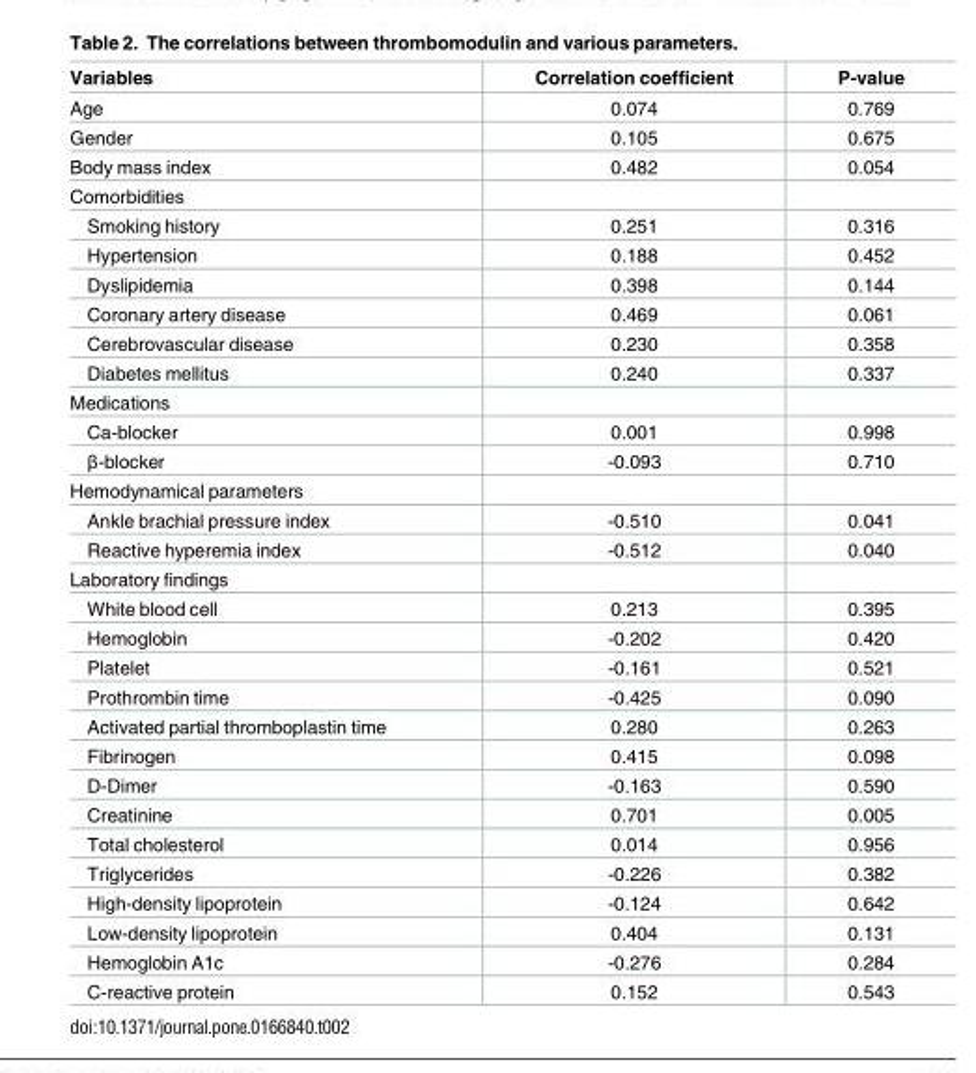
<table><thead><tr><td>Variables</td><td>Correlation coefficient</td><td>P-value</td></tr></thead><tbody><tr><td>Age</td><td>0.074</td><td>0.769</td></tr><tr><td>Gender</td><td>0.105</td><td>0.675</td></tr><tr><td>Body mass index</td><td>0.482</td><td>0.054</td></tr><tr><td colspan="3">Comorbidities</td></tr><tr><td>Smoking history</td><td>0.251</td><td>0.316</td></tr><tr><td>Hypertension</td><td>0.188</td><td>0.452</td></tr><tr><td>Dyslipidemia</td><td>0.398</td><td>0.144</td></tr><tr><td>Coronary artery disease</td><td>0.469</td><td>0.061</td></tr><tr><td>Cerebrovascular disease</td><td>0.230</td><td>0.358</td></tr><tr><td>Diabetes mellitus</td><td>0.240</td><td>0.337</td></tr><tr><td colspan="3">Medications</td></tr><tr><td>Ca-blocker</td><td>0.001</td><td>0.998</td></tr><tr><td>β-blocker</td><td>-0.093</td><td>0.710</td></tr><tr><td colspan="3">Hemodynamical parameters</td></tr><tr><td>Ankle brachial pressure index</td><td>-0.510</td><td>0.041</td></tr><tr><td>Reactive hyperemia index</td><td>-0.512</td><td>0.040</td></tr><tr><td colspan="3">Laboratory findings</td></tr><tr><td>White blood cell</td><td>0.213</td><td>0.395</td></tr><tr><td>Hemoglobin</td><td>-0.202</td><td>0.420</td></tr><tr><td>Platelet</td><td>-0.161</td><td>0.521</td></tr><tr><td>Prothrombin time</td><td>-0.425</td><td>0.090</td></tr><tr><td>Activated partial thromboplastin time</td><td>0.280</td><td>0.263</td></tr><tr><td>Fibrinogen</td><td>0.415</td><td>0.098</td></tr><tr><td>D-Dimer</td><td>-0.163</td><td>0.590</td></tr><tr><td>Creatinine</td><td>0.701</td><td>0.005</td></tr><tr><td>Total cholesterol</td><td>0.014</td><td>0.956</td></tr><tr><td>Triglycerides</td><td>-0.226</td><td>0.382</td></tr><tr><td>High-density lipoprotein</td><td>-0.124</td><td>0.642</td></tr><tr><td>Low-density lipoprotein</td><td>0.404</td><td>0.131</td></tr><tr><td>Hemoglobin A1c</td><td>-0.276</td><td>0.284</td></tr><tr><td>C-reactive protein</td><td>0.152</td><td>0.543</td></tr></tbody></table>